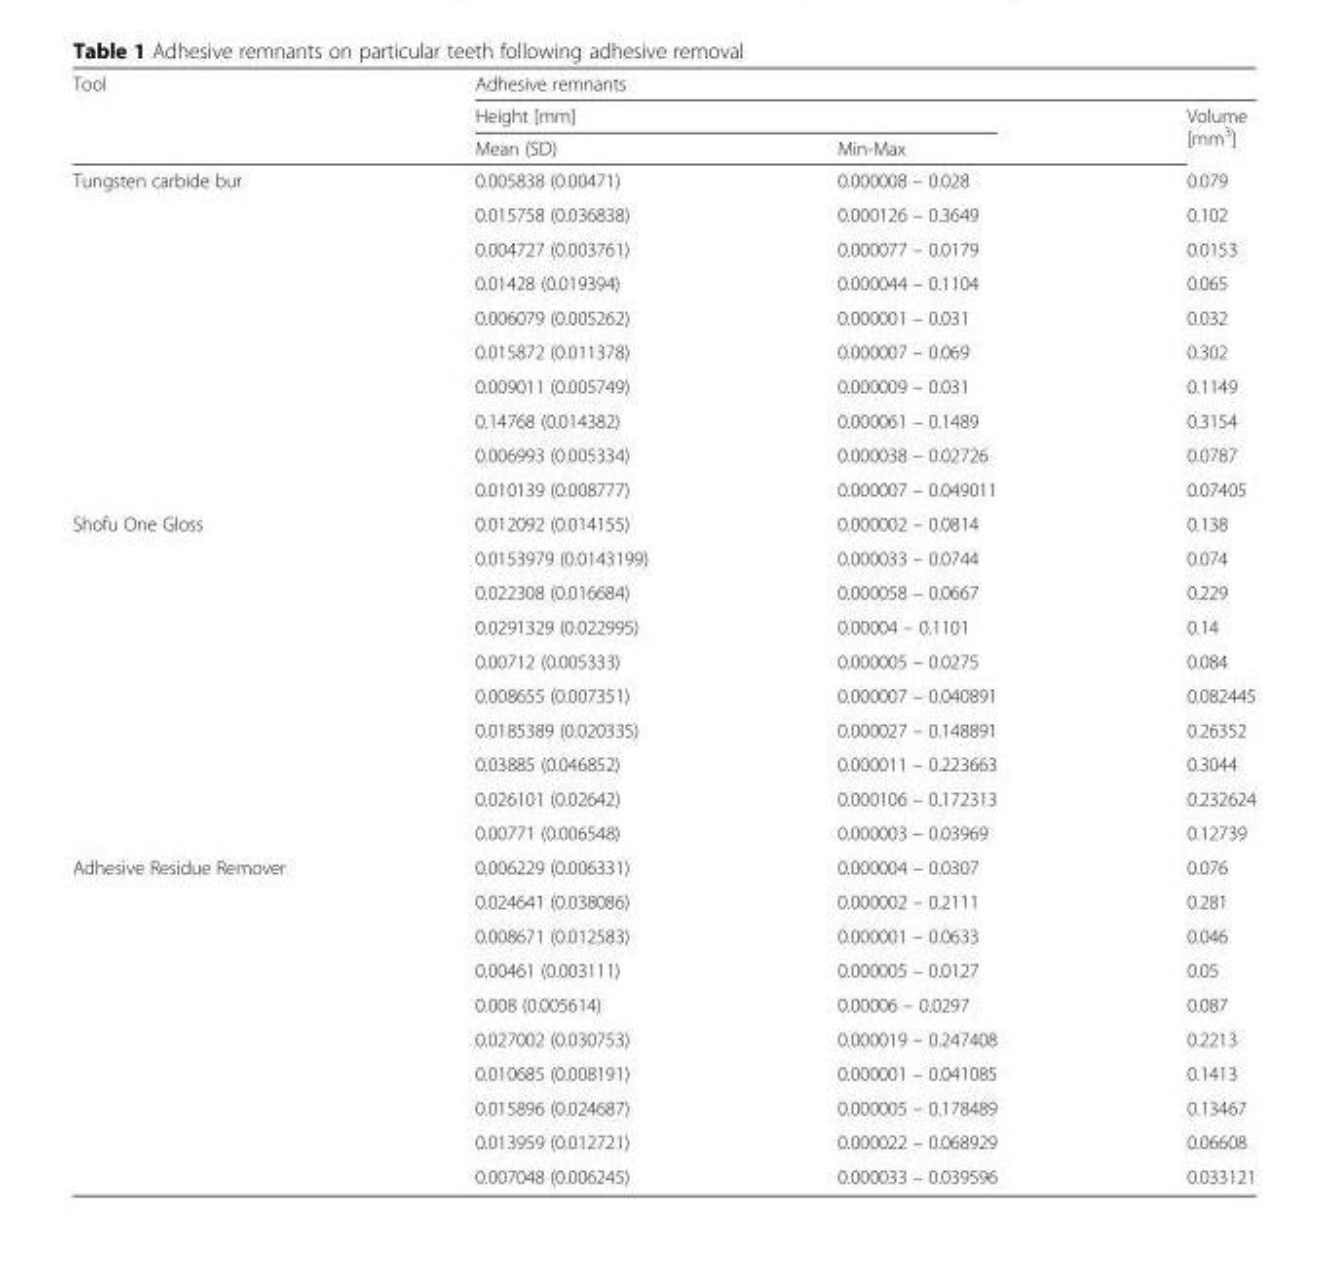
<table><thead><tr><td rowspan="3">Tool</td><td colspan="3">Adhesive remnants</td></tr><tr><td colspan="2">Height [mm]</td><td rowspan="2">Volume [mm<sup>3</sup>]</td></tr><tr><td>Mean (SD)</td><td>Min-Max</td></tr></thead><tbody><tr><td rowspan="10">Tungsten carbide bur</td><td>0.005838 (0.00471)</td><td>0.000008 – 0.028</td><td>0.079</td></tr><tr><td>0.015758 (0.036838)</td><td>0.000126 – 0.3649</td><td>0.102</td></tr><tr><td>0.004727 (0.003761)</td><td>0.000077 – 0.0179</td><td>0.0153</td></tr><tr><td>0.01428 (0.019394)</td><td>0.000044 – 0.1104</td><td>0.065</td></tr><tr><td>0.006079 (0.005262)</td><td>0.000001 – 0.031</td><td>0.032</td></tr><tr><td>0.015872 (0.011378)</td><td>0.000007 – 0.069</td><td>0.302</td></tr><tr><td>0.009011 (0.005749)</td><td>0.000009 – 0.031</td><td>0.1149</td></tr><tr><td>0.14768 (0.014382)</td><td>0.000061 – 0.1489</td><td>0.3154</td></tr><tr><td>0.006993 (0.005334)</td><td>0.000038 – 0.02726</td><td>0.0787</td></tr><tr><td>0.010139 (0.008777)</td><td>0.000007 – 0.049011</td><td>0.07405</td></tr><tr><td rowspan="10">Shofu One Gloss</td><td>0.012092 (0.014155)</td><td>0.000002 – 0.0814</td><td>0.138</td></tr><tr><td>0.0153979 (0.0143199)</td><td>0.000033 – 0.0744</td><td>0.074</td></tr><tr><td>0.022308 (0.016684)</td><td>0.000058 – 0.0667</td><td>0.229</td></tr><tr><td>0.0291329 (0.022995)</td><td>0.00004 – 0.1101</td><td>0.14</td></tr><tr><td>0.00712 (0.005333)</td><td>0.000005 – 0.0275</td><td>0.084</td></tr><tr><td>0.008655 (0.007351)</td><td>0.000007 – 0.040891</td><td>0.082445</td></tr><tr><td>0.0185389 (0.020335)</td><td>0.000027 – 0.148891</td><td>0.26352</td></tr><tr><td>0.03885 (0.046852)</td><td>0.000011 – 0.223663</td><td>0.3044</td></tr><tr><td>0.026101 (0.02642)</td><td>0.000106 – 0.172313</td><td>0.232624</td></tr><tr><td>0.00771 (0.006548)</td><td>0.000003 – 0.03969</td><td>0.12739</td></tr><tr><td rowspan="10">Adhesive Residue Remover</td><td>0.006229 (0.006331)</td><td>0.000004 – 0.0307</td><td>0.076</td></tr><tr><td>0.024641 (0.038086)</td><td>0.000002 – 0.2111</td><td>0.281</td></tr><tr><td>0.008671 (0.012583)</td><td>0.000001 – 0.0633</td><td>0.046</td></tr><tr><td>0.00461 (0.003111)</td><td>0.000005 – 0.0127</td><td>0.05</td></tr><tr><td>0.008 (0.005614)</td><td>0.00006 – 0.0297</td><td>0.087</td></tr><tr><td>0.027002 (0.030753)</td><td>0.000019 – 0.247408</td><td>0.2213</td></tr><tr><td>0.010685 (0.008191)</td><td>0.000001 – 0.041085</td><td>0.1413</td></tr><tr><td>0.015896 (0.024687)</td><td>0.000005 – 0.178489</td><td>0.13467</td></tr><tr><td>0.013959 (0.012721)</td><td>0.000022 – 0.068929</td><td>0.06608</td></tr><tr><td>0.007048 (0.006245)</td><td>0.000033 – 0.039596</td><td>0.033121</td></tr></tbody></table>